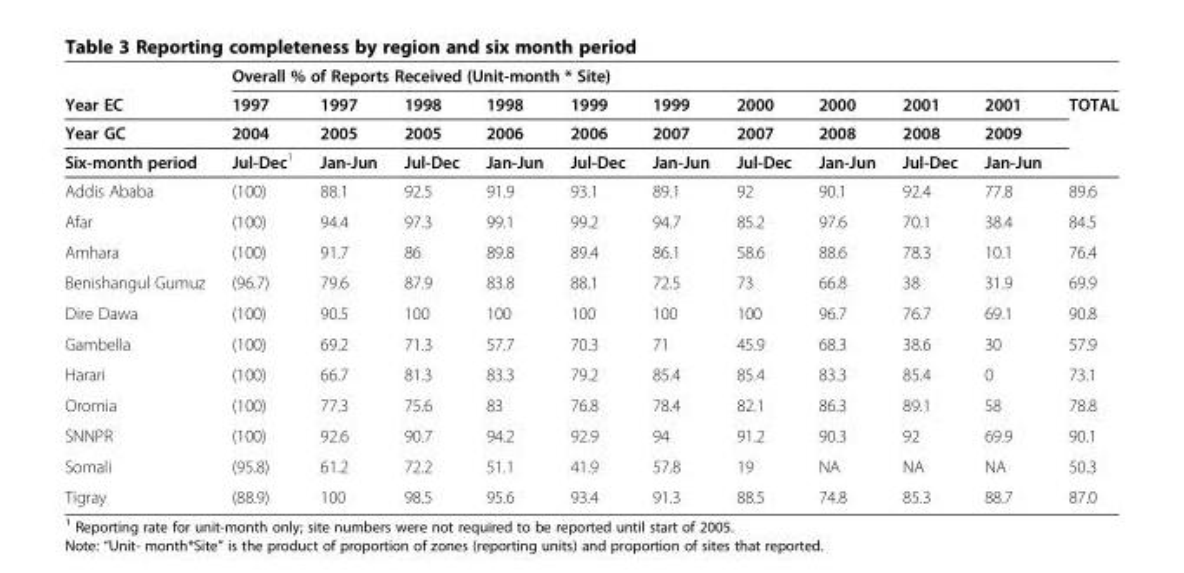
<table><thead><tr><td rowspan="4">Year EC Year GC Six-month period</td><td colspan="11">Overall % of Reports Received (Unit-month * Site)</td></tr><tr><td rowspan="3">1997 2004 Jul-Dec<sup>1</sup></td><td rowspan="3">1997 2005 Jan-Jun</td><td rowspan="3">1998 2005 Jul-Dec</td><td rowspan="3">1998 2006 Jan-Jun</td><td rowspan="3">1999 2006 Jul-Dec</td><td rowspan="3">1999 2007 Jan-Jun</td><td rowspan="3">2000 2007 Jul-Dec</td><td rowspan="3">2000 2008 Jan-Jun</td><td rowspan="3">2001 2008 Jul-Dec</td><td rowspan="3">2001 2009 Jan-Jun</td><td rowspan="3">TOTAL</td></tr><tr></tr><tr></tr></thead><tbody><tr><td>Addis Ababa</td><td>(100)</td><td>88.1</td><td>92.5</td><td>91.9</td><td>93.1</td><td>89.1</td><td>92</td><td>90.1</td><td>92.4</td><td>77.8</td><td>89.6</td></tr><tr><td>Afar</td><td>(100)</td><td>94.4</td><td>97.3</td><td>99.1</td><td>99.2</td><td>94.7</td><td>85.2</td><td>97.6</td><td>70.1</td><td>38.4</td><td>84.5</td></tr><tr><td>Amhara</td><td>(100)</td><td>91.7</td><td>86</td><td>89.8</td><td>89.4</td><td>86.1</td><td>58.6</td><td>88.6</td><td>78.3</td><td>10.1</td><td>76.4</td></tr><tr><td>Benishangul Gumuz</td><td>(96.7)</td><td>79.6</td><td>87.9</td><td>83.8</td><td>88.1</td><td>72.5</td><td>73</td><td>66.8</td><td>38</td><td>31.9</td><td>69.9</td></tr><tr><td>Dire Dawa</td><td>(100)</td><td>90.5</td><td>100</td><td>100</td><td>100</td><td>100</td><td>100</td><td>96.7</td><td>76.7</td><td>69.1</td><td>90.8</td></tr><tr><td>Gambella</td><td>(100)</td><td>69.2</td><td>71.3</td><td>57.7</td><td>70.3</td><td>71</td><td>45.9</td><td>68.3</td><td>38.6</td><td>30</td><td>57.9</td></tr><tr><td>Harari</td><td>(100)</td><td>66.7</td><td>81.3</td><td>83.3</td><td>79.2</td><td>85.4</td><td>85.4</td><td>83.3</td><td>85.4</td><td>0</td><td>73.1</td></tr><tr><td>Oromia</td><td>(100)</td><td>77.3</td><td>75.6</td><td>83</td><td>76.8</td><td>78.4</td><td>82.1</td><td>86.3</td><td>89.1</td><td>58</td><td>78.8</td></tr><tr><td>SNNPR</td><td>(100)</td><td>92.6</td><td>90.7</td><td>94.2</td><td>92.9</td><td>94</td><td>91.2</td><td>90.3</td><td>92</td><td>69.9</td><td>90.1</td></tr><tr><td>Somali</td><td>(95.8)</td><td>61.2</td><td>72.2</td><td>51.1</td><td>41.9</td><td>57.8</td><td>19</td><td>NA</td><td>NA</td><td>NA</td><td>50.3</td></tr><tr><td>Tigray</td><td>(88.9)</td><td>100</td><td>98.5</td><td>95.6</td><td>93.4</td><td>91.3</td><td>88.5</td><td>74.8</td><td>85.3</td><td>88.7</td><td>87.0</td></tr></tbody></table>